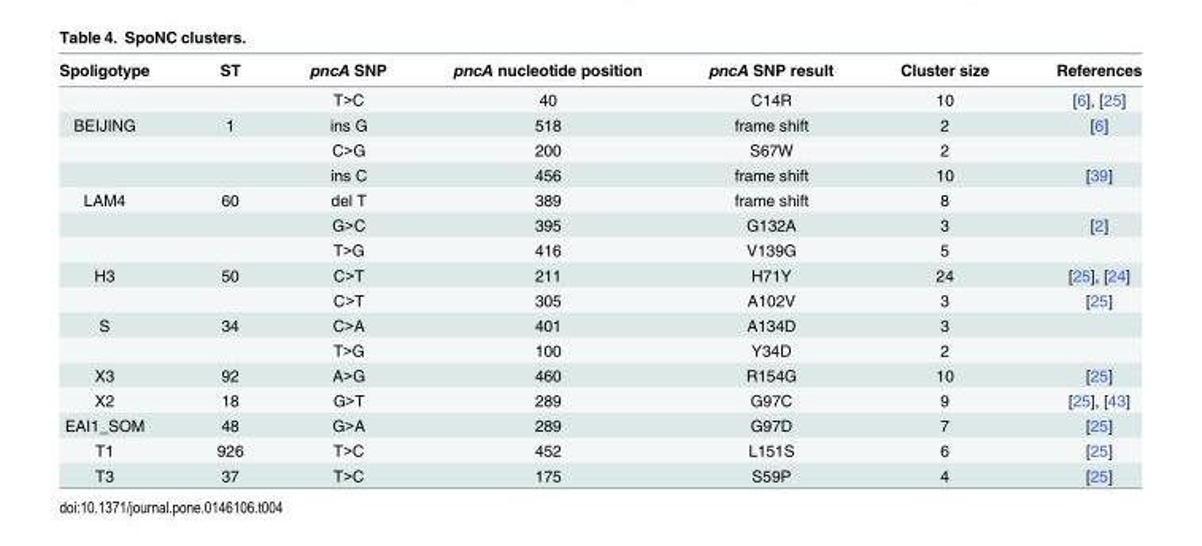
<table><thead><tr><td>Spoligotype</td><td>ST</td><td>pncA SNP</td><td>pncA nucleotide position</td><td>pncA SNP result</td><td>Cluster size</td><td>References</td></tr></thead><tbody><tr><td></td><td></td><td>T&gt;C</td><td>40</td><td>C14R</td><td>10</td><td>[6], [25]</td></tr><tr><td rowspan="3">BEIJING</td><td>1</td><td>ins G</td><td>518</td><td>frame shift</td><td>2</td><td>[6]</td></tr><tr><td></td><td>C&gt;G</td><td>200</td><td>S67W</td><td>2</td><td></td></tr><tr><td></td><td>ins C</td><td>456</td><td>frame shift</td><td>10</td><td>[39]</td></tr><tr><td rowspan="3">LAM4</td><td>60</td><td>del T</td><td>389</td><td>frame shift</td><td>8</td><td></td></tr><tr><td></td><td>G&gt;C</td><td>395</td><td>G132A</td><td>3</td><td>[2]</td></tr><tr><td></td><td>T&gt;G</td><td>416</td><td>V139G</td><td>5</td><td></td></tr><tr><td rowspan="2">H3</td><td>50</td><td>C&gt;T</td><td>211</td><td>H71Y</td><td>24</td><td>[25], [24]</td></tr><tr><td></td><td>C&gt;T</td><td>305</td><td>A102V</td><td>3</td><td>[25]</td></tr><tr><td rowspan="2">S</td><td>34</td><td>C&gt;A</td><td>401</td><td>A134D</td><td>3</td><td></td></tr><tr><td></td><td>T&gt;G</td><td>100</td><td>Y34D</td><td>2</td><td></td></tr><tr><td>X3</td><td>92</td><td>A&gt;G</td><td>460</td><td>R154G</td><td>10</td><td>[25]</td></tr><tr><td>X2</td><td>18</td><td>G&gt;T</td><td>289</td><td>G97C</td><td>9</td><td>[25], [43]</td></tr><tr><td>EAI1_SOM</td><td>48</td><td>G&gt;A</td><td>289</td><td>G97D</td><td>7</td><td>[25]</td></tr><tr><td>T1</td><td>926</td><td>T&gt;C</td><td>452</td><td>L151S</td><td>6</td><td>[25]</td></tr><tr><td>T3</td><td>37</td><td>T&gt;C</td><td>175</td><td>S59P</td><td>4</td><td>[25]</td></tr></tbody></table>